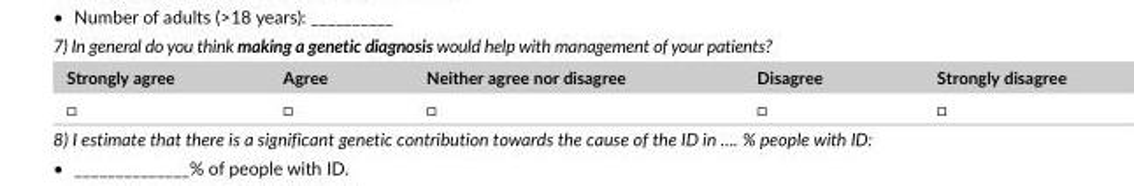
<table><tbody><tr><td>Strongly agree</td><td>Agree</td><td>Neither agree nor disagree</td><td>Disagree</td><td>Strongly disagree</td></tr><tr><td>□</td><td>□</td><td>□</td><td>□</td><td>□</td></tr></tbody></table>